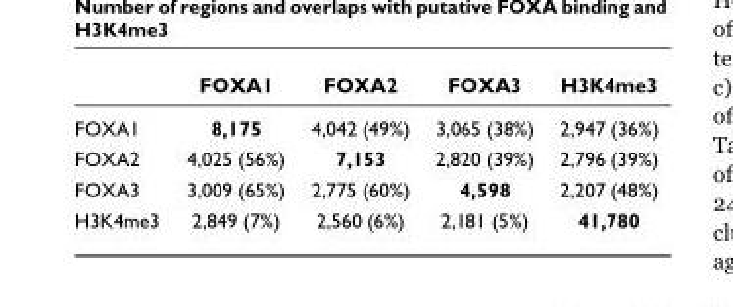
<table><thead><tr><td></td><td>FOXA1</td><td>FOXA2</td><td>FOXA3</td><td>H3K4me3</td></tr></thead><tbody><tr><td>FOXA1</td><td>8,175</td><td>4,042 (49%)</td><td>3,065 (38%)</td><td>2,947 (36%)</td></tr><tr><td>FOXA2</td><td>4,025 (56%)</td><td>7,153</td><td>2,820 (39%)</td><td>2,796 (39%)</td></tr><tr><td>FOXA3</td><td>3,009 (65%)</td><td>2,775 (60%)</td><td>4,598</td><td>2,207 (48%)</td></tr><tr><td>H3K4me3</td><td>2,849 (7%)</td><td>2,560 (6%)</td><td>2,181 (5%)</td><td>41,780</td></tr></tbody></table>